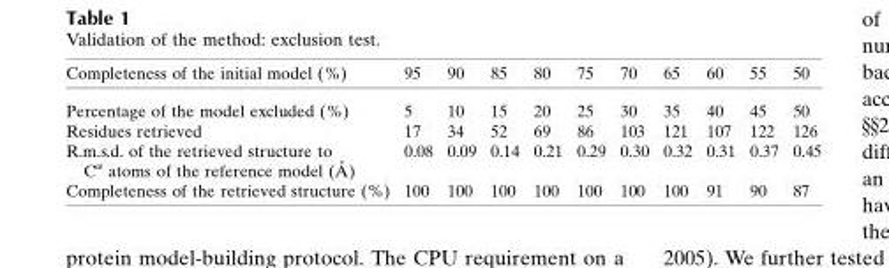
<table><thead><tr><td>Completeness of the initial model (%)</td><td>95</td><td>90</td><td>85</td><td>80</td><td>75</td><td>70</td><td>65</td><td>60</td><td>55</td><td>50</td></tr></thead><tbody><tr><td>Percentage of the model excluded (%)</td><td>5</td><td>10</td><td>15</td><td>20</td><td>25</td><td>30</td><td>35</td><td>40</td><td>45</td><td>50</td></tr><tr><td>Residues retrieved</td><td>17</td><td>34</td><td>52</td><td>69</td><td>86</td><td>103</td><td>121</td><td>107</td><td>122</td><td>126</td></tr><tr><td>R.m.s.d. of the retrieved structure to C� atoms of the reference model (A˚ )</td><td>0.08</td><td>0.09</td><td>0.14</td><td>0.21</td><td>0.29</td><td>0.30</td><td>0.32</td><td>0.31</td><td>0.37</td><td>0.45</td></tr><tr><td>Completeness of the retrieved structure (%)</td><td>100</td><td>100</td><td>100</td><td>100</td><td>100</td><td>100</td><td>100</td><td>91</td><td>90</td><td>87</td></tr></tbody></table>